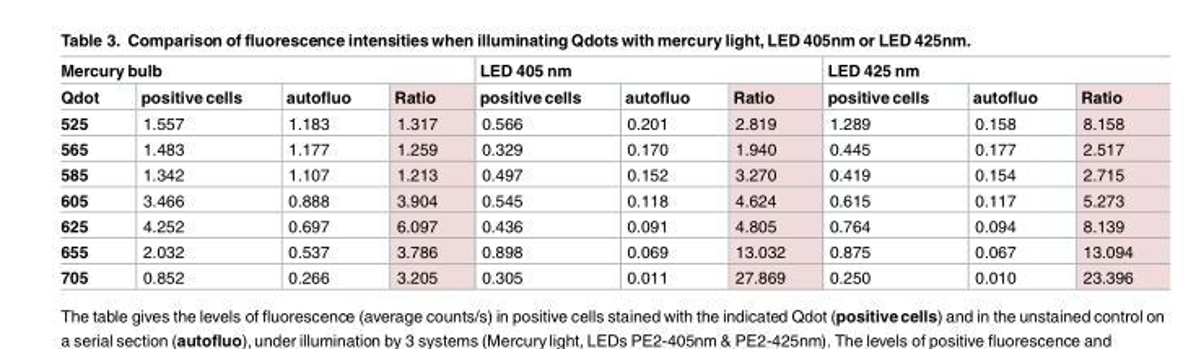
<table><thead><tr><td colspan="4">Mercury bulb</td><td colspan="3">LED 405 nm</td><td colspan="3">LED 425 nm</td></tr><tr><td>Qdot</td><td>positive cells</td><td>autofluo</td><td>Ratio</td><td>positive cells</td><td>autofluo</td><td>Ratio</td><td>positive cells</td><td>autofluo</td><td>Ratio</td></tr></thead><tbody><tr><td>525</td><td>1.557</td><td>1.183</td><td>1.317</td><td>0.566</td><td>0.201</td><td>2.819</td><td>1.289</td><td>0.158</td><td>8.158</td></tr><tr><td>565</td><td>1.483</td><td>1.177</td><td>1.259</td><td>0.329</td><td>0.170</td><td>1.940</td><td>0.445</td><td>0.177</td><td>2.517</td></tr><tr><td>585</td><td>1.342</td><td>1.107</td><td>1.213</td><td>0.497</td><td>0.152</td><td>3.270</td><td>0.419</td><td>0.154</td><td>2.715</td></tr><tr><td>605</td><td>3.466</td><td>0.888</td><td>3.904</td><td>0.545</td><td>0.118</td><td>4.624</td><td>0.615</td><td>0.117</td><td>5.273</td></tr><tr><td>625</td><td>4.252</td><td>0.697</td><td>6.097</td><td>0.436</td><td>0.091</td><td>4.805</td><td>0.764</td><td>0.094</td><td>8.139</td></tr><tr><td>655</td><td>2.032</td><td>0.537</td><td>3.786</td><td>0.898</td><td>0.069</td><td>13.032</td><td>0.875</td><td>0.067</td><td>13.094</td></tr><tr><td>705</td><td>0.852</td><td>0.266</td><td>3.205</td><td>0.305</td><td>0.011</td><td>27.869</td><td>0.250</td><td>0.010</td><td>23.396</td></tr></tbody></table>